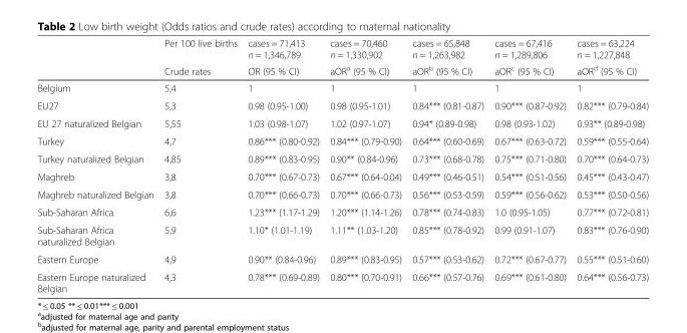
<table><thead><tr><td rowspan="2"></td><td rowspan="2">Per 100 live births Crude rates</td><td rowspan="2">cases = 71,413 n = 1,346,789 OR (95 % CI)</td><td rowspan="2">cases = 70,460 n = 1,330,902 aOR<sup>a</sup> (95 % CI)</td><td rowspan="2">cases = 65,848 n = 1,263,982 aOR<sup>b</sup> (95 % CI)</td><td rowspan="2">cases = 67,416 n = 1,289,806 aOR<sup>c</sup> (95 % CI)</td><td rowspan="2">cases = 63,224 n = 1,227,848 aOR<sup>d</sup> (95 % CI)</td></tr><tr></tr></thead><tbody><tr><td>Belgium</td><td>5,4</td><td>1</td><td>1</td><td>1</td><td>1</td><td>1</td></tr><tr><td>EU27</td><td>5,3</td><td>0.98 (0.95-1.00)</td><td>0.98 (0.95-1.01)</td><td>0.84*** (0.81-0.87)</td><td>0.90*** (0.87-0.92)</td><td>0.82*** (0.79-0.84)</td></tr><tr><td>EU 27 naturalized Belgian</td><td>5,55</td><td>1.03 (0.98-1.07)</td><td>1.02 (0.97-1.07)</td><td>0.94* (0.89-0.98)</td><td>0.98 (0.93-1.02)</td><td>0.93** (0.89-0.98)</td></tr><tr><td>Turkey</td><td>4,7</td><td>0.86*** (0.80-0.92)</td><td>0.84*** (0.79-0.90)</td><td>0.64*** (0.60-0.69)</td><td>0.67*** (0.63-0.72)</td><td>0.59*** (0.55-0.64)</td></tr><tr><td>Turkey naturalized Belgian</td><td>4,85</td><td>0.89*** (0.83-0.95)</td><td>0.90** (0.84-0.96)</td><td>0.73*** (0.68-0.78)</td><td>0.75*** (0.71-0.80)</td><td>0.70*** (0.64-0.73)</td></tr><tr><td>Maghreb</td><td>3,8</td><td>0.70*** (0.67-0.73)</td><td>0.67*** (0.64-0.04)</td><td>0.49*** (0.46-0.51)</td><td>0.54*** (0.51-0.56)</td><td>0.45*** (0.43-0.47)</td></tr><tr><td>Maghreb naturalized Belgian</td><td>3,8</td><td>0.70*** (0.66-0.73)</td><td>0.70*** (0.66-0.73)</td><td>0.56*** (0.53-0.59)</td><td>0.59*** (0.56-0.62)</td><td>0.53*** (0.50-0.56)</td></tr><tr><td>Sub-Saharan Africa</td><td>6,6</td><td>1.23*** (1.17-1.29)</td><td>1.20*** (1.14-1.26)</td><td>0.78*** (0.74-0.83)</td><td>1.0 (0.95-1.05)</td><td>0.77*** (0.72-0.81)</td></tr><tr><td>Sub-Saharan Africa naturalized Belgian</td><td>5,9</td><td>1.10* (1.01-1.19)</td><td>1.11** (1.03-1.20)</td><td>0.85*** (0.78-0.92)</td><td>0.99 (0.91-1.07)</td><td>0.83*** (0.76-0.90)</td></tr><tr><td>Eastern Europe</td><td>4,9</td><td>0.90** (0.84-0.96)</td><td>0.89*** (0.83-0.95)</td><td>0.57*** (0.53-0.62)</td><td>0.72*** (0.67-0.77)</td><td>0.55*** (0.51-0.60)</td></tr><tr><td>Eastern Europe naturalized Belgian</td><td>4,3</td><td>0.78*** (0.69-0.89)</td><td>0.80*** (0.70-0.91)</td><td>0.66*** (0.57-0.76)</td><td>0.69*** (0.61-0.80)</td><td>0.64*** (0.56-0.73)</td></tr></tbody></table>